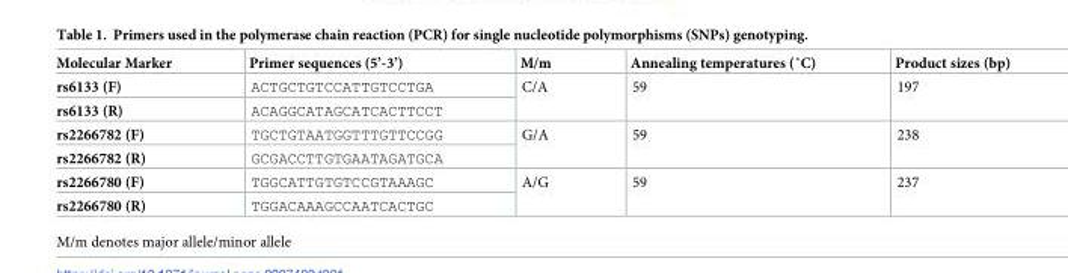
<table><thead><tr><td>Molecular Marker</td><td>Primer sequences (5’-3’)</td><td>M/m</td><td>Annealing temperatures (˚C)</td><td>Product sizes (bp)</td></tr></thead><tbody><tr><td>rs6133 (F)</td><td>ACTGCTGTCCATTGTCCTGA</td><td rowspan="2">C/A</td><td rowspan="2">59</td><td rowspan="2">197</td></tr><tr><td>rs6133 (R)</td><td>ACAGGCATAGCATCACTTCCT</td></tr><tr><td>rs2266782 (F)</td><td>TGCTGTAATGGTTTGTTCCGG</td><td rowspan="2">G/A</td><td rowspan="2">59</td><td rowspan="2">238</td></tr><tr><td>rs2266782 (R)</td><td>GCGACCTTGTGAATAGATGCA</td></tr><tr><td>rs2266780 (F)</td><td>TGGCATTGTGTCCGTAAAGC</td><td rowspan="2">A/G</td><td rowspan="2">59</td><td rowspan="2">237</td></tr><tr><td>rs2266780 (R)</td><td>TGGACAAAGCCAATCACTGC</td></tr></tbody></table>